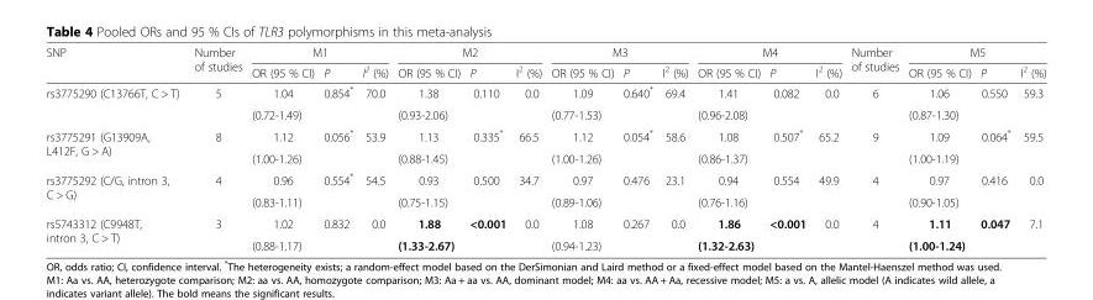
<table><thead><tr><td rowspan="2">SNP</td><td rowspan="2">Number of studies</td><td colspan="3">M1</td><td colspan="3">M2</td><td colspan="3">M3</td><td colspan="3">M4</td><td rowspan="2">Number of studies</td><td colspan="3">M5</td></tr><tr><td>OR (95 % CI)</td><td>P</td><td>I<sup>2</sup> (%)</td><td>OR (95 % CI)</td><td>P</td><td>I<sup>2</sup> (%)</td><td>OR (95 % CI)</td><td>P</td><td>I<sup>2</sup> (%)</td><td>OR (95 % CI)</td><td>P</td><td>I<sup>2</sup> (%)</td><td>OR (95 % CI)</td><td>P</td><td>I<sup>2</sup> (%)</td></tr></thead><tbody><tr><td rowspan="2">rs3775290 (C13766T, C &gt; T)</td><td>5</td><td>1.04</td><td>0.854*</td><td>70.0</td><td>1.38</td><td>0.110</td><td>0.0</td><td>1.09</td><td>0.640*</td><td>69.4</td><td>1.41</td><td>0.082</td><td>0.0</td><td>6</td><td>1.06</td><td>0.550</td><td>59.3</td></tr><tr><td></td><td>(0.72-1.49)</td><td></td><td></td><td>(0.93-2.06)</td><td></td><td></td><td>(0.77-1.53)</td><td></td><td></td><td>(0.96-2.08)</td><td></td><td></td><td></td><td>(0.87-1.30)</td><td></td><td></td></tr><tr><td rowspan="2">rs3775291 (G13909A, L412F, G &gt; A)</td><td rowspan="2">8</td><td>1.12</td><td>0.056*</td><td>53.9</td><td>1.13</td><td>0.335*</td><td>66.5</td><td>1.12</td><td>0.054*</td><td>58.6</td><td>1.08</td><td>0.507*</td><td>65.2</td><td>9</td><td>1.09</td><td>0.064*</td><td>59.5</td></tr><tr><td>(1.00-1.26)</td><td></td><td></td><td>(0.88-1.45)</td><td></td><td></td><td>(1.00-1.26)</td><td></td><td></td><td>(0.86-1.37)</td><td></td><td></td><td></td><td>(1.00-1.19)</td><td></td><td></td></tr><tr><td rowspan="2">rs3775292 (C/G, intron 3, C &gt; G)</td><td rowspan="2">4</td><td>0.96</td><td>0.554*</td><td>54.5</td><td>0.93</td><td>0.500</td><td>34.7</td><td>0.97</td><td>0.476</td><td>23.1</td><td>0.94</td><td>0.554</td><td>49.9</td><td>4</td><td>0.97</td><td>0.416</td><td>0.0</td></tr><tr><td>(0.83-1.11)</td><td></td><td></td><td>(0.75-1.15)</td><td></td><td></td><td>(0.89-1.06)</td><td></td><td></td><td>(0.76-1.16)</td><td></td><td></td><td></td><td>(0.90-1.05)</td><td></td><td></td></tr><tr><td rowspan="2">rs5743312 (C9948T, intron 3, C &gt; T)</td><td rowspan="2">3</td><td>1.02</td><td>0.832</td><td>0.0</td><td>1.88</td><td>&lt;0.001</td><td>0.0</td><td>1.08</td><td>0.267</td><td>0.0</td><td>1.86</td><td>&lt;0.001</td><td>0.0</td><td>4</td><td>1.11</td><td>0.047</td><td>7.1</td></tr><tr><td>(0.88-1.17)</td><td></td><td></td><td>(1.33-2.67)</td><td></td><td></td><td>(0.94-1.23)</td><td></td><td></td><td>(1.32-2.63)</td><td></td><td></td><td></td><td>(1.00-1.24)</td><td></td><td></td></tr></tbody></table>